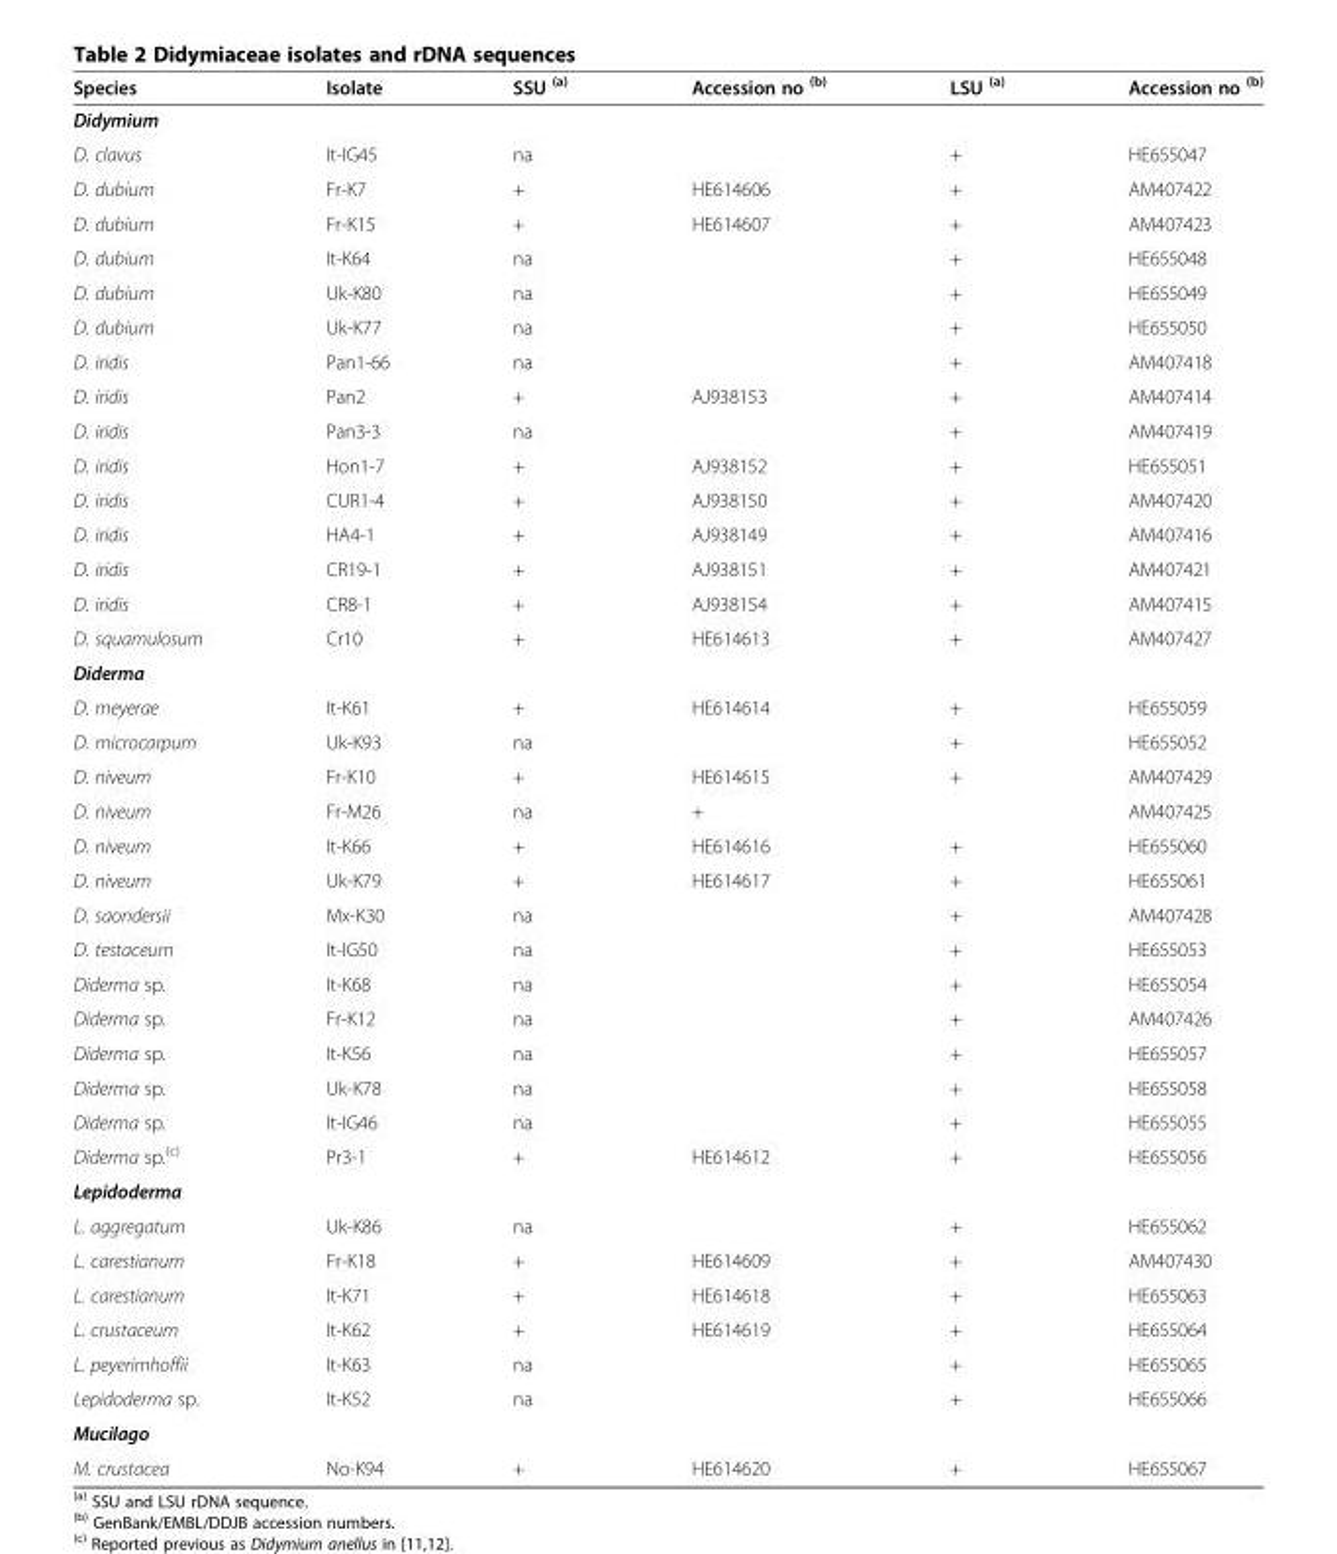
<table><thead><tr><td>Species</td><td>Isolate</td><td>SSU <sup>(a)</sup></td><td>Accession no <sup>(b)</sup></td><td>LSU <sup>(a)</sup></td><td>Accession no <sup>(b)</sup></td></tr></thead><tbody><tr><td colspan="6">Didymium</td></tr><tr><td>D. clavus</td><td>It-IG45</td><td>na</td><td></td><td>+</td><td>HE655047</td></tr><tr><td>D. dubium</td><td>Fr-K7</td><td>+</td><td>HE614606</td><td>+</td><td>AM407422</td></tr><tr><td>D. dubium</td><td>Fr-K15</td><td>+</td><td>HE614607</td><td>+</td><td>AM407423</td></tr><tr><td>D. dubium</td><td>It-K64</td><td>na</td><td></td><td>+</td><td>HE655048</td></tr><tr><td>D. dubium</td><td>Uk-K80</td><td>na</td><td></td><td>+</td><td>HE655049</td></tr><tr><td>D. dubium</td><td>Uk-K77</td><td>na</td><td></td><td>+</td><td>HE655050</td></tr><tr><td>D. iridis</td><td>Pan1-66</td><td>na</td><td></td><td>+</td><td>AM407418</td></tr><tr><td>D. iridis</td><td>Pan2</td><td>+</td><td>AJ938153</td><td>+</td><td>AM407414</td></tr><tr><td>D. iridis</td><td>Pan3-3</td><td>na</td><td></td><td>+</td><td>AM407419</td></tr><tr><td>D. iridis</td><td>Hon1-7</td><td>+</td><td>AJ938152</td><td>+</td><td>HE655051</td></tr><tr><td>D. iridis</td><td>CUR1-4</td><td>+</td><td>AJ938150</td><td>+</td><td>AM407420</td></tr><tr><td>D. iridis</td><td>HA4-1</td><td>+</td><td>AJ938149</td><td>+</td><td>AM407416</td></tr><tr><td>D. iridis</td><td>CR19-1</td><td>+</td><td>AJ938151</td><td>+</td><td>AM407421</td></tr><tr><td>D. iridis</td><td>CR8-1</td><td>+</td><td>AJ938154</td><td>+</td><td>AM407415</td></tr><tr><td>D. squamulosum</td><td>Cr10</td><td>+</td><td>HE614613</td><td>+</td><td>AM407427</td></tr><tr><td colspan="6">Diderma</td></tr><tr><td>D. meyerae</td><td>It-K61</td><td>+</td><td>HE614614</td><td>+</td><td>HE655059</td></tr><tr><td>D. microcarpum</td><td>Uk-K93</td><td>na</td><td></td><td>+</td><td>HE655052</td></tr><tr><td>D. niveum</td><td>Fr-K10</td><td>+</td><td>HE614615</td><td>+</td><td>AM407429</td></tr><tr><td>D. niveum</td><td>Fr-M26</td><td>na</td><td>+</td><td></td><td>AM407425</td></tr><tr><td>D. niveum</td><td>It-K66</td><td>+</td><td>HE614616</td><td>+</td><td>HE655060</td></tr><tr><td>D. niveum</td><td>Uk-K79</td><td>+</td><td>HE614617</td><td>+</td><td>HE655061</td></tr><tr><td>D. saondersii</td><td>Mx-K30</td><td>na</td><td></td><td>+</td><td>AM407428</td></tr><tr><td>D. testaceum</td><td>It-IG50</td><td>na</td><td></td><td>+</td><td>HE655053</td></tr><tr><td>Diderma sp.</td><td>It-K68</td><td>na</td><td></td><td>+</td><td>HE655054</td></tr><tr><td>Diderma sp.</td><td>Fr-K12</td><td>na</td><td></td><td>+</td><td>AM407426</td></tr><tr><td>Diderma sp.</td><td>It-K56</td><td>na</td><td></td><td>+</td><td>HE655057</td></tr><tr><td>Diderma sp.</td><td>Uk-K78</td><td>na</td><td></td><td>+</td><td>HE655058</td></tr><tr><td>Diderma sp.</td><td>It-IG46</td><td>na</td><td></td><td>+</td><td>HE655055</td></tr><tr><td>Diderma sp.<sup>(c)</sup></td><td>Pr3-1</td><td>+</td><td>HE614612</td><td>+</td><td>HE655056</td></tr><tr><td colspan="6">Lepidoderma</td></tr><tr><td>L. aggregatum</td><td>Uk-K86</td><td>na</td><td></td><td>+</td><td>HE655062</td></tr><tr><td>L. carestianum</td><td>Fr-K18</td><td>+</td><td>HE614609</td><td>+</td><td>AM407430</td></tr><tr><td>L. carestianum</td><td>It-K71</td><td>+</td><td>HE614618</td><td>+</td><td>HE655063</td></tr><tr><td>L. crustaceum</td><td>It-K62</td><td>+</td><td>HE614619</td><td>+</td><td>HE655064</td></tr><tr><td>L. peyerimhoffii</td><td>It-K63</td><td>na</td><td></td><td>+</td><td>HE655065</td></tr><tr><td>Lepidoderma sp.</td><td>It-K52</td><td>na</td><td></td><td>+</td><td>HE655066</td></tr><tr><td colspan="6">Mucilago</td></tr><tr><td>M. crustacea</td><td>No-K94</td><td>+</td><td>HE614620</td><td>+</td><td>HE655067</td></tr></tbody></table>